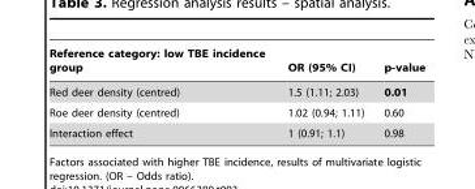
<table><thead><tr><td>Reference category: low TBE incidence group</td><td>OR (95% CI)</td><td>p-value</td></tr></thead><tbody><tr><td>Red deer density (centred)</td><td>1.5 (1.11; 2.03)</td><td>0.01</td></tr><tr><td>Roe deer density (centred)</td><td>1.02 (0.94; 1.11)</td><td>0.60</td></tr><tr><td>Interaction effect</td><td>1 (0.91; 1.1)</td><td>0.98</td></tr></tbody></table>